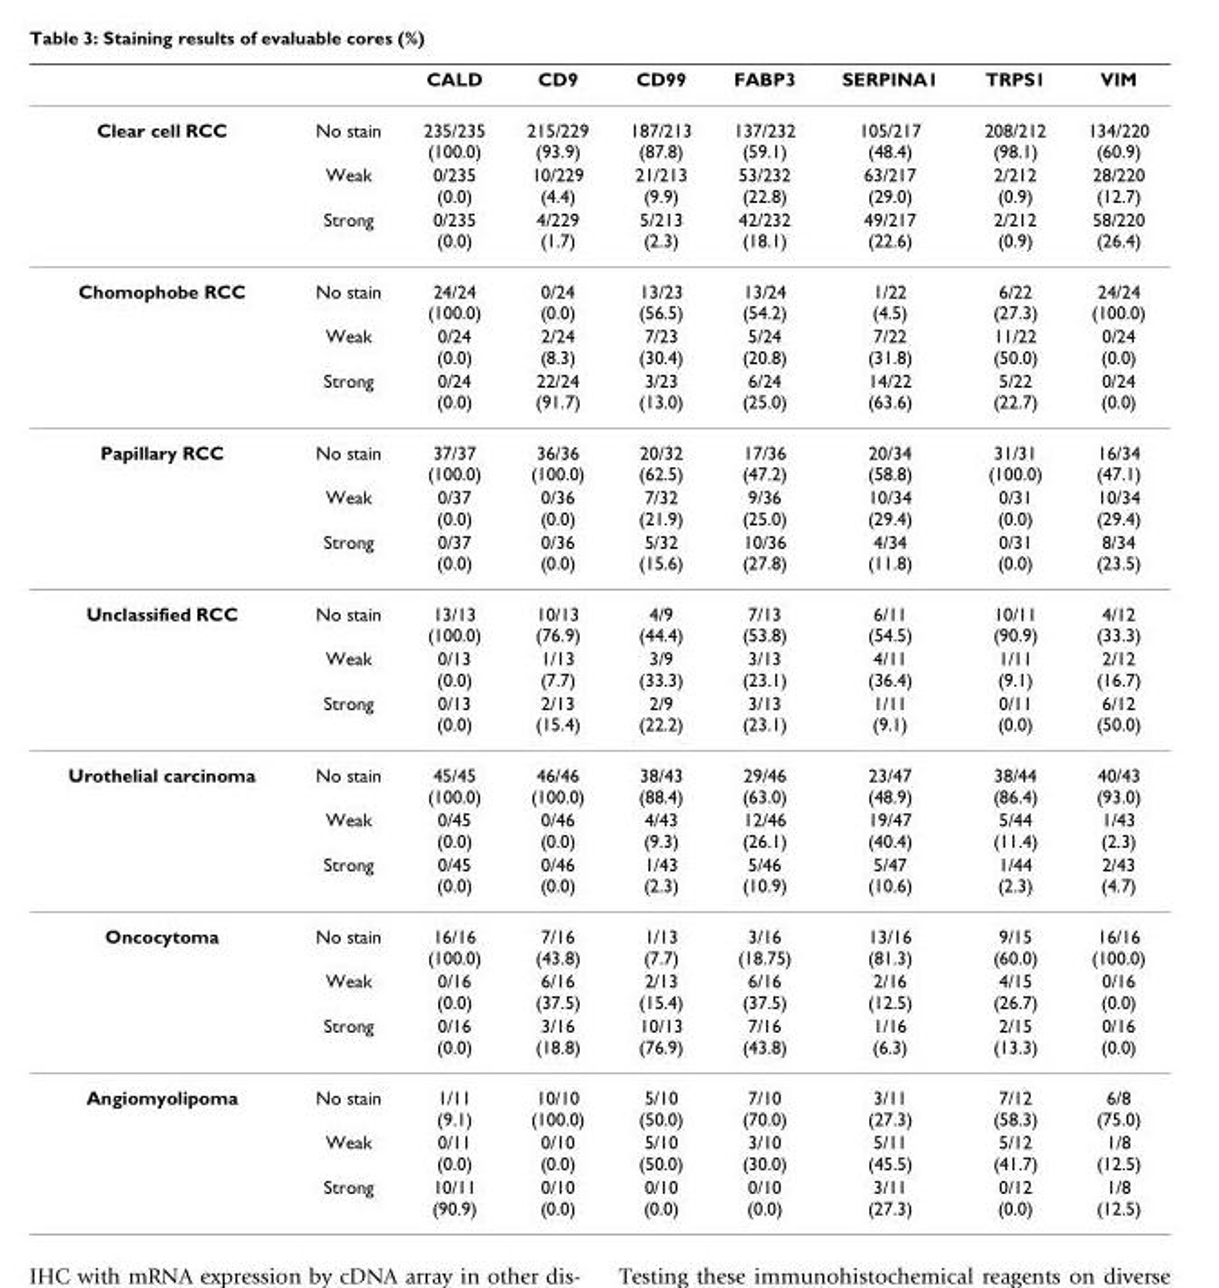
<table><thead><tr><td></td><td></td><td>CALD</td><td>CD9</td><td>CD99</td><td>FABP3</td><td>SERPINA1</td><td>TRPS1</td><td>VIM</td></tr></thead><tbody><tr><td rowspan="3">Clear cell RCC</td><td>No stain</td><td>235/235 (100.0)</td><td>215/229 (93.9)</td><td>187/213 (87.8)</td><td>137/232 (59.1)</td><td>105/217 (48.4)</td><td>208/212 (98.1)</td><td>134/220 (60.9)</td></tr><tr><td>Weak</td><td>0/235 (0.0)</td><td>10/229 (4.4)</td><td>21/213 (9.9)</td><td>53/232 (22.8)</td><td>63/217 (29.0)</td><td>2/212 (0.9)</td><td>28/220 (12.7)</td></tr><tr><td>Strong</td><td>0/235 (0.0)</td><td>4/229 (1.7)</td><td>5/213 (2.3)</td><td>42/232 (18.1)</td><td>49/217 (22.6)</td><td>2/212 (0.9)</td><td>58/220 (26.4)</td></tr><tr><td rowspan="3">Chomophobe RCC</td><td>No stain</td><td>24/24 (100.0)</td><td>0/24 (0.0)</td><td>13/23 (56.5)</td><td>13/24 (54.2)</td><td>1/22 (4.5)</td><td>6/22 (27.3)</td><td>24/24 (100.0)</td></tr><tr><td>Weak</td><td>0/24 (0.0)</td><td>2/24 (8.3)</td><td>7/23 (30.4)</td><td>5/24 (20.8)</td><td>7/22 (31.8)</td><td>11/22 (50.0)</td><td>0/24 (0.0)</td></tr><tr><td>Strong</td><td>0/24 (0.0)</td><td>22/24 (91.7)</td><td>3/23 (13.0)</td><td>6/24 (25.0)</td><td>14/22 (63.6)</td><td>5/22 (22.7)</td><td>0/24 (0.0)</td></tr><tr><td rowspan="3">Papillary RCC</td><td>No stain</td><td>37/37 (100.0)</td><td>36/36 (100.0)</td><td>20/32 (62.5)</td><td>17/36 (47.2)</td><td>20/34 (58.8)</td><td>31/31 (100.0)</td><td>16/34 (47.1)</td></tr><tr><td>Weak</td><td>0/37 (0.0)</td><td>0/36 (0.0)</td><td>7/32 (21.9)</td><td>9/36 (25.0)</td><td>10/34 (29.4)</td><td>0/31 (0.0)</td><td>10/34 (29.4)</td></tr><tr><td>Strong</td><td>0/37 (0.0)</td><td>0/36 (0.0)</td><td>5/32 (15.6)</td><td>10/36 (27.8)</td><td>4/34 (11.8)</td><td>0/31 (0.0)</td><td>8/34 (23.5)</td></tr><tr><td rowspan="3">Unclassified RCC</td><td>No stain</td><td>13/13 (100.0)</td><td>10/13 (76.9)</td><td>4/9 (44.4)</td><td>7/13 (53.8)</td><td>6/11 (54.5)</td><td>10/11 (90.9)</td><td>4/12 (33.3)</td></tr><tr><td>Weak</td><td>0/13 (0.0)</td><td>1/13 (7.7)</td><td>3/9 (33.3)</td><td>3/13 (23.1)</td><td>4/11 (36.4)</td><td>1/11 (9.1)</td><td>2/12 (16.7)</td></tr><tr><td>Strong</td><td>0/13 (0.0)</td><td>2/13 (15.4)</td><td>2/9 (22.2)</td><td>3/13 (23.1)</td><td>1/11 (9.1)</td><td>0/11 (0.0)</td><td>6/12 (50.0)</td></tr><tr><td rowspan="3">Urothelial carcinoma</td><td>No stain</td><td>45/45 (100.0)</td><td>46/46 (100.0)</td><td>38/43 (88.4)</td><td>29/46 (63.0)</td><td>23/47 (48.9)</td><td>38/44 (86.4)</td><td>40/43 (93.0)</td></tr><tr><td>Weak</td><td>0/45 (0.0)</td><td>0/46 (0.0)</td><td>4/43 (9.3)</td><td>12/46 (26.1)</td><td>19/47 (40.4)</td><td>5/44 (11.4)</td><td>1/43 (2.3)</td></tr><tr><td>Strong</td><td>0/45 (0.0)</td><td>0/46 (0.0)</td><td>1/43 (2.3)</td><td>5/46 (10.9)</td><td>5/47 (10.6)</td><td>1/44 (2.3)</td><td>2/43 (4.7)</td></tr><tr><td rowspan="3">Oncocytoma</td><td>No stain</td><td>16/16 (100.0)</td><td>7/16 (43.8)</td><td>1/13 (7.7)</td><td>3/16 (18.75)</td><td>13/16 (81.3)</td><td>9/15 (60.0)</td><td>16/16 (100.0)</td></tr><tr><td>Weak</td><td>0/16 (0.0)</td><td>6/16 (37.5)</td><td>2/13 (15.4)</td><td>6/16 (37.5)</td><td>2/16 (12.5)</td><td>4/15 (26.7)</td><td>0/16 (0.0)</td></tr><tr><td>Strong</td><td>0/16 (0.0)</td><td>3/16 (18.8)</td><td>10/13 (76.9)</td><td>7/16 (43.8)</td><td>1/16 (6.3)</td><td>2/15 (13.3)</td><td>0/16 (0.0)</td></tr><tr><td rowspan="3">Angiomyolipoma</td><td>No stain</td><td>1/11 (9.1)</td><td>10/10 (100.0)</td><td>5/10 (50.0)</td><td>7/10 (70.0)</td><td>3/11 (27.3)</td><td>7/12 (58.3)</td><td>6/8 (75.0)</td></tr><tr><td>Weak</td><td>0/11 (0.0)</td><td>0/10 (0.0)</td><td>5/10 (50.0)</td><td>3/10 (30.0)</td><td>5/11 (45.5)</td><td>5/12 (41.7)</td><td>1/8 (12.5)</td></tr><tr><td>Strong</td><td>10/11 (90.9)</td><td>0/10 (0.0)</td><td>0/10 (0.0)</td><td>0/10 (0.0)</td><td>3/11 (27.3)</td><td>0/12 (0.0)</td><td>1/8 (12.5)</td></tr></tbody></table>